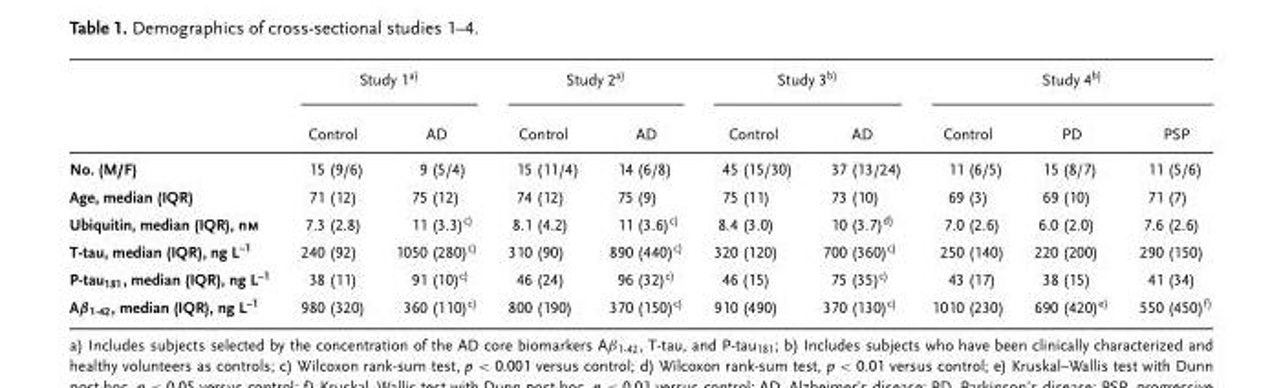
<table><thead><tr><td rowspan="2"></td><td colspan="2">Study 1a)</td><td colspan="2">Study 2a)</td><td colspan="2">Study 3b)</td><td colspan="3">Study 4b)</td></tr><tr><td>Control</td><td>AD</td><td>Control</td><td>AD</td><td>Control</td><td>AD</td><td>Control</td><td>PD</td><td>PSP</td></tr></thead><tbody><tr><td>No. (M/F)</td><td>15 (9/6)</td><td>9 (5/4)</td><td>15 (11/4)</td><td>14 (6/8)</td><td>45 (15/30)</td><td>37 (13/24)</td><td>11 (6/5)</td><td>15 (8/7)</td><td>11 (5/6)</td></tr><tr><td>Age, median (IQR)</td><td>71 (12)</td><td>75 (12)</td><td>74 (12)</td><td>75 (9)</td><td>75 (11)</td><td>73 (10)</td><td>69 (3)</td><td>69 (10)</td><td>71 (7)</td></tr><tr><td>Ubiquitin, median (IQR), nm</td><td>7.3 (2.8)</td><td>11 (3.3)c)</td><td>8.1 (4.2)</td><td>11 (3.6)c)</td><td>8.4 (3.0)</td><td>10 (3.7)d)</td><td>7.0 (2.6)</td><td>6.0 (2.0)</td><td>7.6 (2.6)</td></tr><tr><td>T-tau, median (IQR), ng L<sup>–1</sup></td><td>240 (92)</td><td>1050 (280)c)</td><td>310 (90)</td><td>890 (440)c)</td><td>320 (120)</td><td>700 (360)c)</td><td>250 (140)</td><td>220 (200)</td><td>290 (150)</td></tr><tr><td>P-tau<sub>181</sub>, median (IQR), ng L<sup>–1</sup></td><td>38 (11)</td><td>91 (10)c)</td><td>46 (24)</td><td>96 (32)c)</td><td>46 (15)</td><td>75 (35)c)</td><td>43 (17)</td><td>38 (15)</td><td>41 (34)</td></tr><tr><td>Aβ<sub>1-42</sub>, median (IQR), ng L<sup>–1</sup></td><td>980 (320)</td><td>360 (110)c)</td><td>800 (190)</td><td>370 (150)c)</td><td>910 (490)</td><td>370 (130)c)</td><td>1010 (230)</td><td>690 (420)e)</td><td>550 (450)f)</td></tr></tbody></table>